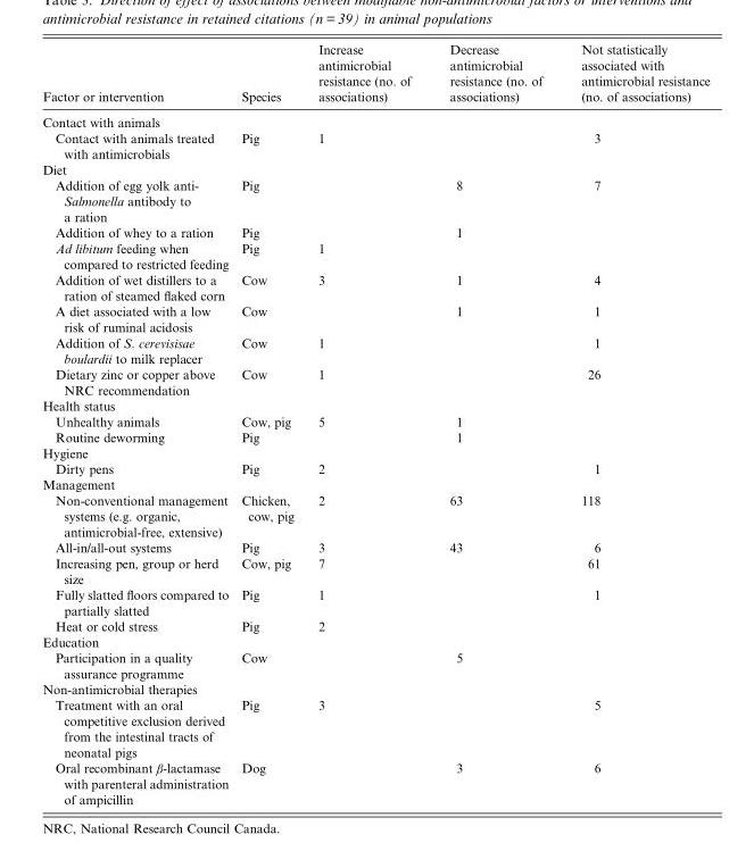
<table><thead><tr><td>Factor or intervention</td><td>Species</td><td>Increase antimicrobial resistance (no. of associations)</td><td>Decrease antimicrobial resistance (no. of associations)</td><td>Not statistically associated with antimicrobial resistance (no. of associations)</td></tr></thead><tbody><tr><td colspan="5">Contact with animals</td></tr><tr><td>Contact with animals treated with antimicrobials</td><td>Pig</td><td>1</td><td></td><td>3</td></tr><tr><td colspan="5">Diet</td></tr><tr><td>Addition of egg yolk anti- Salmonella antibody to a ration</td><td>Pig</td><td></td><td>8</td><td>7</td></tr><tr><td>Addition of whey to a ration</td><td>Pig</td><td></td><td>1</td><td></td></tr><tr><td>Ad libitum feeding when compared to restricted feeding</td><td>Pig</td><td>1</td><td></td><td></td></tr><tr><td>Addition of wet distillers to a ration of steamed flaked corn</td><td>Cow</td><td>3</td><td>1</td><td>4</td></tr><tr><td>A diet associated with a low risk of ruminal acidosis</td><td>Cow</td><td></td><td>1</td><td>1</td></tr><tr><td>Addition of S. cerevisisae boulardii to milk replacer</td><td>Cow</td><td>1</td><td></td><td>1</td></tr><tr><td>Dietary zinc or copper above NRC recommendation</td><td>Cow</td><td>1</td><td></td><td>26</td></tr><tr><td colspan="5">Health status</td></tr><tr><td>Unhealthy animals</td><td>Cow, pig</td><td>5</td><td>1</td><td></td></tr><tr><td>Routine deworming</td><td>Pig</td><td></td><td>1</td><td></td></tr><tr><td colspan="5">Hygiene</td></tr><tr><td>Dirty pens</td><td>Pig</td><td>2</td><td></td><td>1</td></tr><tr><td colspan="5">Management</td></tr><tr><td>Non-conventional management systems (e.g. organic, antimicrobial-free, extensive)</td><td>Chicken, cow, pig</td><td>2</td><td>63</td><td>118</td></tr><tr><td>All-in/all-out systems</td><td>Pig</td><td>3</td><td>43</td><td>6</td></tr><tr><td>Increasing pen, group or herd size</td><td>Cow, pig</td><td>7</td><td></td><td>61</td></tr><tr><td>Fully slatted floors compared to partially slatted</td><td>Pig</td><td>1</td><td></td><td>1</td></tr><tr><td>Heat or cold stress</td><td>Pig</td><td>2</td><td></td><td></td></tr><tr><td colspan="5">Education</td></tr><tr><td>Participation in a quality assurance programme</td><td>Cow</td><td></td><td>5</td><td></td></tr><tr><td colspan="5">Non-antimicrobial therapies</td></tr><tr><td>Treatment with an oral competitive exclusion derived from the intestinal tracts of neonatal pigs</td><td>Pig</td><td>3</td><td></td><td>5</td></tr><tr><td>Oral recombinant β-lactamase with parenteral administration of ampicillin</td><td>Dog</td><td></td><td>3</td><td>6</td></tr></tbody></table>